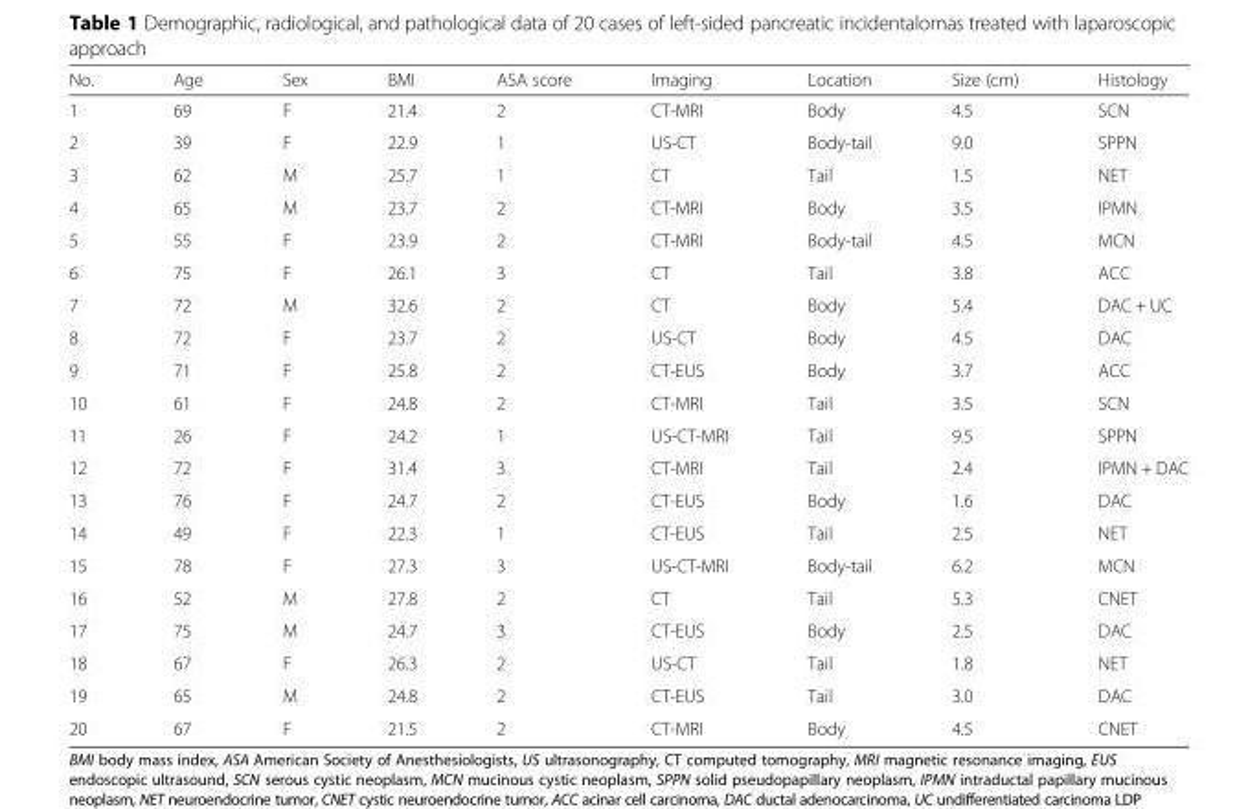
<table><thead><tr><td>No.</td><td>Age</td><td>Sex</td><td>BMI</td><td>ASA score</td><td>Imaging</td><td>Location</td><td>Size (cm)</td><td>Histology</td></tr></thead><tbody><tr><td>1</td><td>69</td><td>F</td><td>21.4</td><td>2</td><td>CT-MRI</td><td>Body</td><td>4.5</td><td>SCN</td></tr><tr><td>2</td><td>39</td><td>F</td><td>22.9</td><td>1</td><td>US-CT</td><td>Body-tail</td><td>9.0</td><td>SPPN</td></tr><tr><td>3</td><td>62</td><td>M</td><td>25.7</td><td>1</td><td>CT</td><td>Tail</td><td>1.5</td><td>NET</td></tr><tr><td>4</td><td>65</td><td>M</td><td>23.7</td><td>2</td><td>CT-MRI</td><td>Body</td><td>3.5</td><td>IPMN</td></tr><tr><td>5</td><td>55</td><td>F</td><td>23.9</td><td>2</td><td>CT-MRI</td><td>Body-tail</td><td>4.5</td><td>MCN</td></tr><tr><td>6</td><td>75</td><td>F</td><td>26.1</td><td>3</td><td>CT</td><td>Tail</td><td>3.8</td><td>ACC</td></tr><tr><td>7</td><td>72</td><td>M</td><td>32.6</td><td>2</td><td>CT</td><td>Body</td><td>5.4</td><td>DAC + UC</td></tr><tr><td>8</td><td>72</td><td>F</td><td>23.7</td><td>2</td><td>US-CT</td><td>Body</td><td>4.5</td><td>DAC</td></tr><tr><td>9</td><td>71</td><td>F</td><td>25.8</td><td>2</td><td>CT-EUS</td><td>Body</td><td>3.7</td><td>ACC</td></tr><tr><td>10</td><td>61</td><td>F</td><td>24.8</td><td>2</td><td>CT-MRI</td><td>Tail</td><td>3.5</td><td>SCN</td></tr><tr><td>11</td><td>26</td><td>F</td><td>24.2</td><td>1</td><td>US-CT-MRI</td><td>Tail</td><td>9.5</td><td>SPPN</td></tr><tr><td>12</td><td>72</td><td>F</td><td>31.4</td><td>3</td><td>CT-MRI</td><td>Tail</td><td>2.4</td><td>IPMN + DAC</td></tr><tr><td>13</td><td>76</td><td>F</td><td>24.7</td><td>2</td><td>CT-EUS</td><td>Body</td><td>1.6</td><td>DAC</td></tr><tr><td>14</td><td>49</td><td>F</td><td>22.3</td><td>1</td><td>CT-EUS</td><td>Tail</td><td>2.5</td><td>NET</td></tr><tr><td>15</td><td>78</td><td>F</td><td>27.3</td><td>3</td><td>US-CT-MRI</td><td>Body-tail</td><td>6.2</td><td>MCN</td></tr><tr><td>16</td><td>52</td><td>M</td><td>27.8</td><td>2</td><td>CT</td><td>Tail</td><td>5.3</td><td>CNET</td></tr><tr><td>17</td><td>75</td><td>M</td><td>24.7</td><td>3</td><td>CT-EUS</td><td>Body</td><td>2.5</td><td>DAC</td></tr><tr><td>18</td><td>67</td><td>F</td><td>26.3</td><td>2</td><td>US-CT</td><td>Tail</td><td>1.8</td><td>NET</td></tr><tr><td>19</td><td>65</td><td>M</td><td>24.8</td><td>2</td><td>CT-EUS</td><td>Tail</td><td>3.0</td><td>DAC</td></tr><tr><td>20</td><td>67</td><td>F</td><td>21.5</td><td>2</td><td>CT-MRI</td><td>Body</td><td>4.5</td><td>CNET</td></tr></tbody></table>